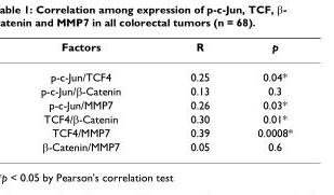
<table><thead><tr><td>Factors</td><td>R</td><td>p</td></tr></thead><tbody><tr><td>p-c-Jun/TCF4</td><td>0.25</td><td>0.04*</td></tr><tr><td>p-c-Jun/β-Catenin</td><td>0.13</td><td>0.3</td></tr><tr><td>p-c-Jun/MMP7</td><td>0.26</td><td>0.03*</td></tr><tr><td>TCF4/β-Catenin</td><td>0.30</td><td>0.01*</td></tr><tr><td>TCF4/MMP7</td><td>0.39</td><td>0.0008*</td></tr><tr><td>β-Catenin/MMP7</td><td>0.05</td><td>0.6</td></tr></tbody></table>